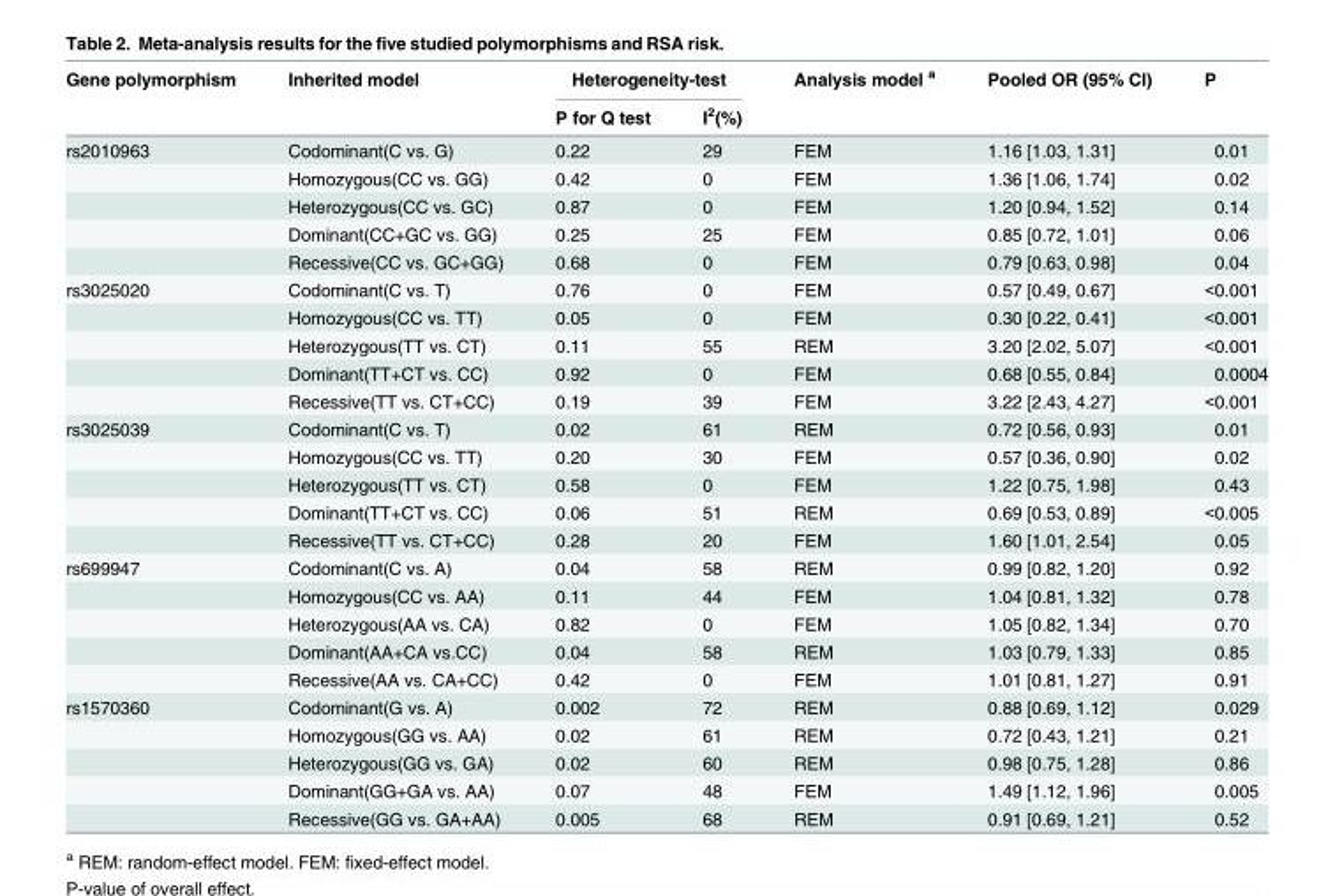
<table><thead><tr><td rowspan="2">Gene polymorphism</td><td rowspan="2">Inherited model</td><td colspan="2">Heterogeneity-test</td><td rowspan="2">Analysis model <sup>a</sup></td><td rowspan="2">Pooled OR (95% CI)</td><td rowspan="2">P</td></tr><tr><td>P for Q test</td><td>I<sup>2</sup>(%)</td></tr></thead><tbody><tr><td rowspan="5">rs2010963</td><td>Codominant(C vs. G)</td><td>0.22</td><td>29</td><td>FEM</td><td>1.16 [1.03, 1.31]</td><td>0.01</td></tr><tr><td>Homozygous(CC vs. GG)</td><td>0.42</td><td>0</td><td>FEM</td><td>1.36 [1.06, 1.74]</td><td>0.02</td></tr><tr><td>Heterozygous(CC vs. GC)</td><td>0.87</td><td>0</td><td>FEM</td><td>1.20 [0.94, 1.52]</td><td>0.14</td></tr><tr><td>Dominant(CC+GC vs. GG)</td><td>0.25</td><td>25</td><td>FEM</td><td>0.85 [0.72, 1.01]</td><td>0.06</td></tr><tr><td>Recessive(CC vs. GC+GG)</td><td>0.68</td><td>0</td><td>FEM</td><td>0.79 [0.63, 0.98]</td><td>0.04</td></tr><tr><td rowspan="5">rs3025020</td><td>Codominant(C vs. T)</td><td>0.76</td><td>0</td><td>FEM</td><td>0.57 [0.49, 0.67]</td><td>&lt;0.001</td></tr><tr><td>Homozygous(CC vs. TT)</td><td>0.05</td><td>0</td><td>FEM</td><td>0.30 [0.22, 0.41]</td><td>&lt;0.001</td></tr><tr><td>Heterozygous(TT vs. CT)</td><td>0.11</td><td>55</td><td>REM</td><td>3.20 [2.02, 5.07]</td><td>&lt;0.001</td></tr><tr><td>Dominant(TT+CT vs. CC)</td><td>0.92</td><td>0</td><td>FEM</td><td>0.68 [0.55, 0.84]</td><td>0.0004</td></tr><tr><td>Recessive(TT vs. CT+CC)</td><td>0.19</td><td>39</td><td>FEM</td><td>3.22 [2.43, 4.27]</td><td>&lt;0.001</td></tr><tr><td rowspan="5">rs3025039</td><td>Codominant(C vs. T)</td><td>0.02</td><td>61</td><td>REM</td><td>0.72 [0.56, 0.93]</td><td>0.01</td></tr><tr><td>Homozygous(CC vs. TT)</td><td>0.20</td><td>30</td><td>FEM</td><td>0.57 [0.36, 0.90]</td><td>0.02</td></tr><tr><td>Heterozygous(TT vs. CT)</td><td>0.58</td><td>0</td><td>FEM</td><td>1.22 [0.75, 1.98]</td><td>0.43</td></tr><tr><td>Dominant(TT+CT vs. CC)</td><td>0.06</td><td>51</td><td>REM</td><td>0.69 [0.53, 0.89]</td><td>&lt;0.005</td></tr><tr><td>Recessive(TT vs. CT+CC)</td><td>0.28</td><td>20</td><td>FEM</td><td>1.60 [1.01, 2.54]</td><td>0.05</td></tr><tr><td rowspan="5">rs699947</td><td>Codominant(C vs. A)</td><td>0.04</td><td>58</td><td>REM</td><td>0.99 [0.82, 1.20]</td><td>0.92</td></tr><tr><td>Homozygous(CC vs. AA)</td><td>0.11</td><td>44</td><td>FEM</td><td>1.04 [0.81, 1.32]</td><td>0.78</td></tr><tr><td>Heterozygous(AA vs. CA)</td><td>0.82</td><td>0</td><td>FEM</td><td>1.05 [0.82, 1.34]</td><td>0.70</td></tr><tr><td>Dominant(AA+CA vs.CC)</td><td>0.04</td><td>58</td><td>REM</td><td>1.03 [0.79, 1.33]</td><td>0.85</td></tr><tr><td>Recessive(AA vs. CA+CC)</td><td>0.42</td><td>0</td><td>FEM</td><td>1.01 [0.81, 1.27]</td><td>0.91</td></tr><tr><td rowspan="5">rs1570360</td><td>Codominant(G vs. A)</td><td>0.002</td><td>72</td><td>REM</td><td>0.88 [0.69, 1.12]</td><td>0.029</td></tr><tr><td>Homozygous(GG vs. AA)</td><td>0.02</td><td>61</td><td>REM</td><td>0.72 [0.43, 1.21]</td><td>0.21</td></tr><tr><td>Heterozygous(GG vs. GA)</td><td>0.02</td><td>60</td><td>REM</td><td>0.98 [0.75, 1.28]</td><td>0.86</td></tr><tr><td>Dominant(GG+GA vs. AA)</td><td>0.07</td><td>48</td><td>FEM</td><td>1.49 [1.12, 1.96]</td><td>0.005</td></tr><tr><td>Recessive(GG vs. GA+AA)</td><td>0.005</td><td>68</td><td>REM</td><td>0.91 [0.69, 1.21]</td><td>0.52</td></tr></tbody></table>